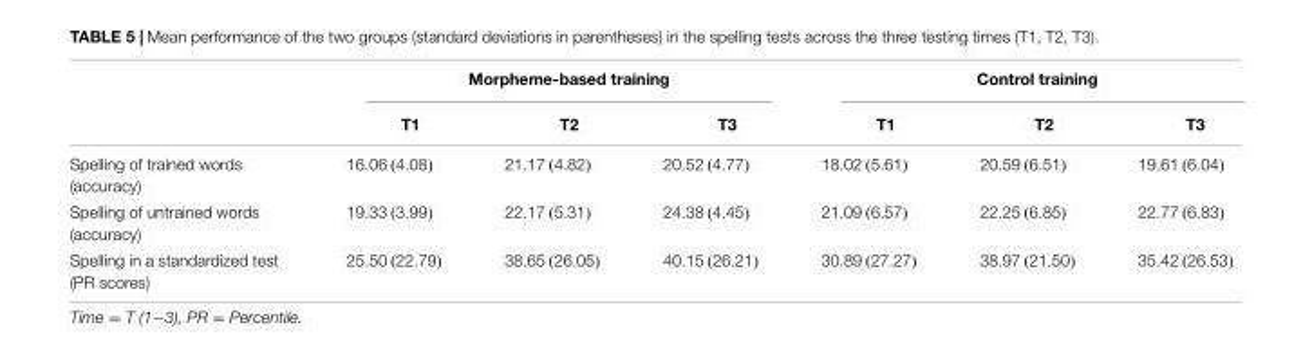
<table><thead><tr><td rowspan="2"></td><td colspan="3">Morpheme-based training</td><td colspan="3">Control training</td></tr><tr><td>T1</td><td>T2</td><td>T3</td><td>T1</td><td>T2</td><td>T3</td></tr></thead><tbody><tr><td>Spelling of trained words (accuracy)</td><td>16.06 (4.08)</td><td>21.17 (4.82)</td><td>20.52 (4.77)</td><td>18.02 (5.61)</td><td>20.59 (6.51)</td><td>19.61 (6.04)</td></tr><tr><td>Spelling of untrained words (accuracy)</td><td>19.33 (3.99)</td><td>22.17 (5.31)</td><td>24.38 (4.45)</td><td>21.09 (6.57)</td><td>22.25 (6.85)</td><td>22.77 (6.83)</td></tr><tr><td>Spelling in a standardized test (PR scores)</td><td>25.50 (22.79)</td><td>38.65 (26.05)</td><td>40.15 (26.21)</td><td>30.89 (27.27)</td><td>38.97 (21.50)</td><td>35.42 (26.53)</td></tr></tbody></table>